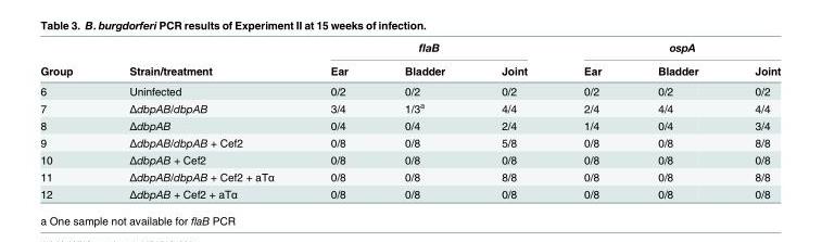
<table><thead><tr><td rowspan="2">Group</td><td rowspan="2">Strain/treatment</td><td colspan="3">flaB</td><td colspan="3">ospA</td></tr><tr><td>Ear</td><td>Bladder</td><td>Joint</td><td>Ear</td><td>Bladder</td><td>Joint</td></tr></thead><tbody><tr><td>6</td><td>Uninfected</td><td>0/2</td><td>0/2</td><td>0/2</td><td>0/2</td><td>0/2</td><td>0/2</td></tr><tr><td>7</td><td>ΔdbpAB/dbpAB</td><td>3/4</td><td>1/3<sup>a</sup></td><td>4/4</td><td>2/4</td><td>4/4</td><td>4/4</td></tr><tr><td>8</td><td>ΔdbpAB</td><td>0/4</td><td>0/4</td><td>2/4</td><td>1/4</td><td>0/4</td><td>3/4</td></tr><tr><td>9</td><td>ΔdbpAB/dbpAB + Cef2</td><td>0/8</td><td>0/8</td><td>5/8</td><td>0/8</td><td>0/8</td><td>8/8</td></tr><tr><td>10</td><td>ΔdbpAB + Cef2</td><td>0/8</td><td>0/8</td><td>0/8</td><td>0/8</td><td>0/8</td><td>0/8</td></tr><tr><td>11</td><td>ΔdbpAB/dbpAB + Cef2 + aTα</td><td>0/8</td><td>0/8</td><td>8/8</td><td>0/8</td><td>0/8</td><td>8/8</td></tr><tr><td>12</td><td>ΔdbpAB + Cef2 + aTα</td><td>0/8</td><td>0/8</td><td>0/8</td><td>0/8</td><td>0/8</td><td>0/8</td></tr></tbody></table>